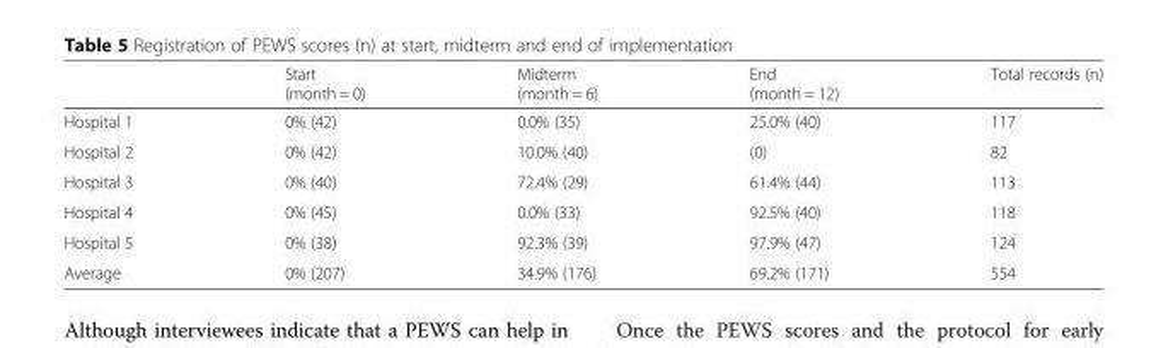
<table><thead><tr><td></td><td>Start (month = 0)</td><td>Midterm (month = 6)</td><td>End (month = 12)</td><td>Total records (n)</td></tr></thead><tbody><tr><td>Hospital 1</td><td>0% (42)</td><td>0.0% (35)</td><td>25.0% (40)</td><td>117</td></tr><tr><td>Hospital 2</td><td>0% (42)</td><td>10.0% (40)</td><td>(0)</td><td>82</td></tr><tr><td>Hospital 3</td><td>0% (40)</td><td>72.4% (29)</td><td>61.4% (44)</td><td>113</td></tr><tr><td>Hospital 4</td><td>0% (45)</td><td>0.0% (33)</td><td>92.5% (40)</td><td>118</td></tr><tr><td>Hospital 5</td><td>0% (38)</td><td>92.3% (39)</td><td>97.9% (47)</td><td>124</td></tr><tr><td>Average</td><td>0% (207)</td><td>34.9% (176)</td><td>69.2% (171)</td><td>554</td></tr></tbody></table>